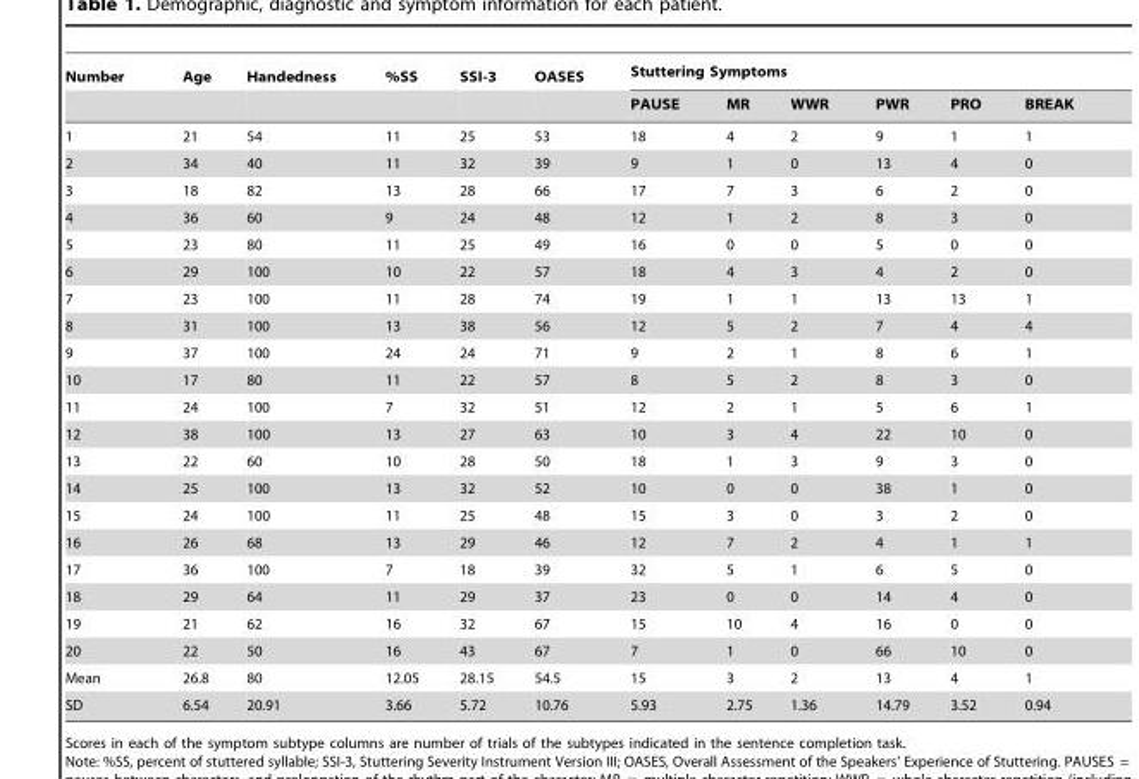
<table><thead><tr><td rowspan="2">Number</td><td rowspan="2">Age</td><td rowspan="2">Handedness</td><td rowspan="2">%SS</td><td rowspan="2">SSI-3</td><td rowspan="2">OASES</td><td colspan="6">Stuttering Symptoms</td></tr><tr><td>PAUSE</td><td>MR</td><td>WWR</td><td>PWR</td><td>PRO</td><td>BREAK</td></tr></thead><tbody><tr><td>1</td><td>21</td><td>54</td><td>11</td><td>25</td><td>53</td><td>18</td><td>4</td><td>2</td><td>9</td><td>1</td><td>1</td></tr><tr><td>2</td><td>34</td><td>40</td><td>11</td><td>32</td><td>39</td><td>9</td><td>1</td><td>0</td><td>13</td><td>4</td><td>0</td></tr><tr><td>3</td><td>18</td><td>82</td><td>13</td><td>28</td><td>66</td><td>17</td><td>7</td><td>3</td><td>6</td><td>2</td><td>0</td></tr><tr><td>4</td><td>36</td><td>60</td><td>9</td><td>24</td><td>48</td><td>12</td><td>1</td><td>2</td><td>8</td><td>3</td><td>0</td></tr><tr><td>5</td><td>23</td><td>80</td><td>11</td><td>25</td><td>49</td><td>16</td><td>0</td><td>0</td><td>5</td><td>0</td><td>0</td></tr><tr><td>6</td><td>29</td><td>100</td><td>10</td><td>22</td><td>57</td><td>18</td><td>4</td><td>3</td><td>4</td><td>2</td><td>0</td></tr><tr><td>7</td><td>23</td><td>100</td><td>11</td><td>28</td><td>74</td><td>19</td><td>1</td><td>1</td><td>13</td><td>13</td><td>1</td></tr><tr><td>8</td><td>31</td><td>100</td><td>13</td><td>38</td><td>56</td><td>12</td><td>5</td><td>2</td><td>7</td><td>4</td><td>4</td></tr><tr><td>9</td><td>37</td><td>100</td><td>24</td><td>24</td><td>71</td><td>9</td><td>2</td><td>1</td><td>8</td><td>6</td><td>1</td></tr><tr><td>10</td><td>17</td><td>80</td><td>11</td><td>22</td><td>57</td><td>8</td><td>5</td><td>2</td><td>8</td><td>3</td><td>0</td></tr><tr><td>11</td><td>24</td><td>100</td><td>7</td><td>32</td><td>51</td><td>12</td><td>2</td><td>1</td><td>5</td><td>6</td><td>1</td></tr><tr><td>12</td><td>38</td><td>100</td><td>13</td><td>27</td><td>63</td><td>10</td><td>3</td><td>4</td><td>22</td><td>10</td><td>0</td></tr><tr><td>13</td><td>22</td><td>60</td><td>10</td><td>28</td><td>50</td><td>18</td><td>1</td><td>3</td><td>9</td><td>3</td><td>0</td></tr><tr><td>14</td><td>25</td><td>100</td><td>13</td><td>32</td><td>52</td><td>10</td><td>0</td><td>0</td><td>38</td><td>1</td><td>0</td></tr><tr><td>15</td><td>24</td><td>100</td><td>11</td><td>25</td><td>48</td><td>15</td><td>3</td><td>0</td><td>3</td><td>2</td><td>0</td></tr><tr><td>16</td><td>26</td><td>68</td><td>13</td><td>29</td><td>46</td><td>12</td><td>7</td><td>2</td><td>4</td><td>1</td><td>1</td></tr><tr><td>17</td><td>36</td><td>100</td><td>7</td><td>18</td><td>39</td><td>32</td><td>5</td><td>1</td><td>6</td><td>5</td><td>0</td></tr><tr><td>18</td><td>29</td><td>64</td><td>11</td><td>29</td><td>37</td><td>23</td><td>0</td><td>0</td><td>14</td><td>4</td><td>0</td></tr><tr><td>19</td><td>21</td><td>62</td><td>16</td><td>32</td><td>67</td><td>15</td><td>10</td><td>4</td><td>16</td><td>0</td><td>0</td></tr><tr><td>20</td><td>22</td><td>50</td><td>16</td><td>43</td><td>67</td><td>7</td><td>1</td><td>0</td><td>66</td><td>10</td><td>0</td></tr><tr><td>Mean</td><td>26.8</td><td>80</td><td>12.05</td><td>28.15</td><td>54.5</td><td>15</td><td>3</td><td>2</td><td>13</td><td>4</td><td>1</td></tr><tr><td>SD</td><td>6.54</td><td>20.91</td><td>3.66</td><td>5.72</td><td>10.76</td><td>5.93</td><td>2.75</td><td>1.36</td><td>14.79</td><td>3.52</td><td>0.94</td></tr></tbody></table>